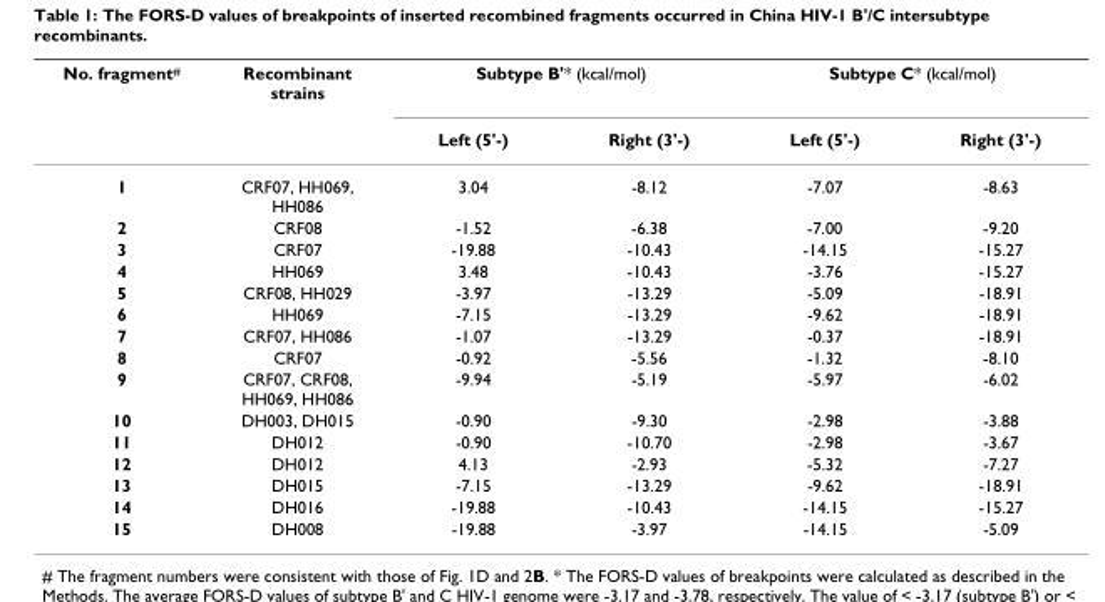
<table><thead><tr><td rowspan="2">No. fragment<sup>#</sup></td><td rowspan="2">Recombinant strains</td><td colspan="2">Subtype B&#x27;* (kcal/mol)</td><td colspan="2">Subtype C* (kcal/mol)</td></tr><tr><td>Left (5&#x27;-)</td><td>Right (3&#x27;-)</td><td>Left (5&#x27;-)</td><td>Right (3&#x27;-)</td></tr></thead><tbody><tr><td>1</td><td>CRF07, HH069, HH086</td><td>3.04</td><td>-8.12</td><td>-7.07</td><td>-8.63</td></tr><tr><td>2</td><td>CRF08</td><td>-1.52</td><td>-6.38</td><td>-7.00</td><td>-9.20</td></tr><tr><td>3</td><td>CRF07</td><td>-19.88</td><td>-10.43</td><td>-14.15</td><td>-15.27</td></tr><tr><td>4</td><td>HH069</td><td>3.48</td><td>-10.43</td><td>-3.76</td><td>-15.27</td></tr><tr><td>5</td><td>CRF08, HH029</td><td>-3.97</td><td>-13.29</td><td>-5.09</td><td>-18.91</td></tr><tr><td>6</td><td>HH069</td><td>-7.15</td><td>-13.29</td><td>-9.62</td><td>-18.91</td></tr><tr><td>7</td><td>CRF07, HH086</td><td>-1.07</td><td>-13.29</td><td>-0.37</td><td>-18.91</td></tr><tr><td>8</td><td>CRF07</td><td>-0.92</td><td>-5.56</td><td>-1.32</td><td>-8.10</td></tr><tr><td>9</td><td>CRF07, CRF08, HH069, HH086</td><td>-9.94</td><td>-5.19</td><td>-5.97</td><td>-6.02</td></tr><tr><td>10</td><td>DH003, DH015</td><td>-0.90</td><td>-9.30</td><td>-2.98</td><td>-3.88</td></tr><tr><td>11</td><td>DH012</td><td>-0.90</td><td>-10.70</td><td>-2.98</td><td>-3.67</td></tr><tr><td>12</td><td>DH012</td><td>4.13</td><td>-2.93</td><td>-5.32</td><td>-7.27</td></tr><tr><td>13</td><td>DH015</td><td>-7.15</td><td>-13.29</td><td>-9.62</td><td>-18.91</td></tr><tr><td>14</td><td>DH016</td><td>-19.88</td><td>-10.43</td><td>-14.15</td><td>-15.27</td></tr><tr><td>15</td><td>DH008</td><td>-19.88</td><td>-3.97</td><td>-14.15</td><td>-5.09</td></tr></tbody></table>